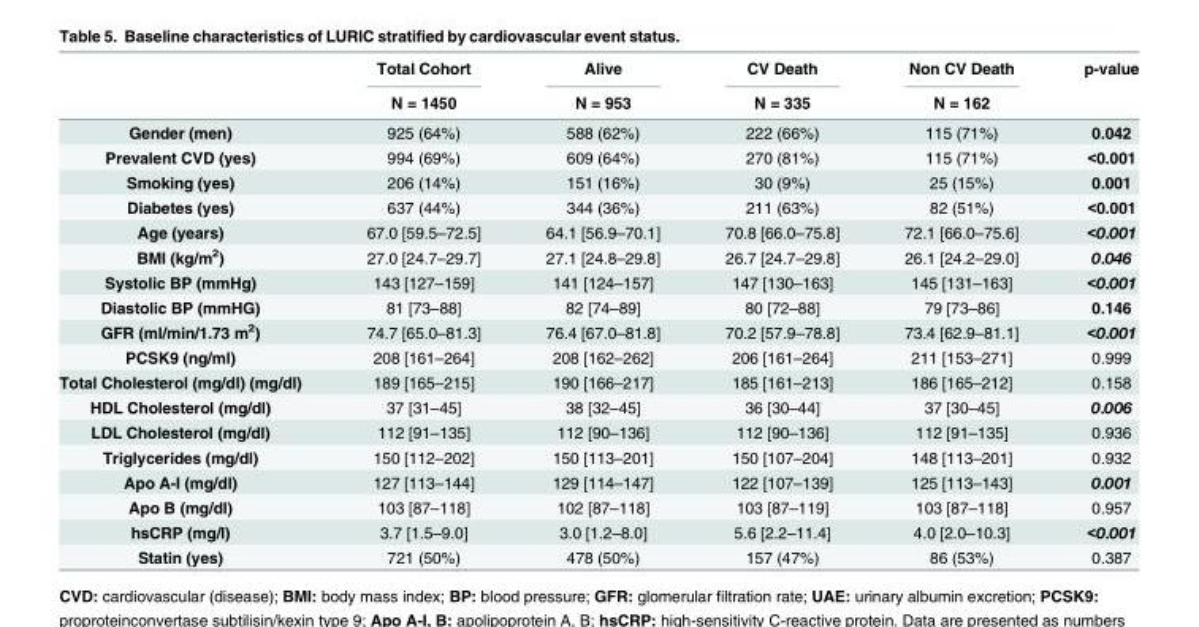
<table><thead><tr><td rowspan="2"></td><td rowspan="2">Total Cohort N = 1450</td><td rowspan="2">Alive N = 953</td><td rowspan="2">CV Death N = 335</td><td rowspan="2">Non CV Death N = 162</td><td rowspan="2">p-value</td></tr><tr></tr></thead><tbody><tr><td>Gender (men)</td><td>925 (64%)</td><td>588 (62%)</td><td>222 (66%)</td><td>115 (71%)</td><td>0.042</td></tr><tr><td>Prevalent CVD (yes)</td><td>994 (69%)</td><td>609 (64%)</td><td>270 (81%)</td><td>115 (71%)</td><td>&lt;0.001</td></tr><tr><td>Smoking (yes)</td><td>206 (14%)</td><td>151 (16%)</td><td>30 (9%)</td><td>25 (15%)</td><td>0.001</td></tr><tr><td>Diabetes (yes)</td><td>637 (44%)</td><td>344 (36%)</td><td>211 (63%)</td><td>82 (51%)</td><td>&lt;0.001</td></tr><tr><td>Age (years)</td><td>67.0 [59.5–72.5]</td><td>64.1 [56.9–70.1]</td><td>70.8 [66.0–75.8]</td><td>72.1 [66.0–75.6]</td><td>&lt;0.001</td></tr><tr><td>BMI (kg/m<sup>2</sup>)</td><td>27.0 [24.7–29.7]</td><td>27.1 [24.8–29.8]</td><td>26.7 [24.7–29.8]</td><td>26.1 [24.2–29.0]</td><td>0.046</td></tr><tr><td>Systolic BP (mmHg)</td><td>143 [127–159]</td><td>141 [124–157]</td><td>147 [130–163]</td><td>145 [131–163]</td><td>&lt;0.001</td></tr><tr><td>Diastolic BP (mmHG)</td><td>81 [73–88]</td><td>82 [74–89]</td><td>80 [72–88]</td><td>79 [73–86]</td><td>0.146</td></tr><tr><td>GFR (ml/min/1.73 m<sup>2</sup>)</td><td>74.7 [65.0–81.3]</td><td>76.4 [67.0–81.8]</td><td>70.2 [57.9–78.8]</td><td>73.4 [62.9–81.1]</td><td>&lt;0.001</td></tr><tr><td>PCSK9 (ng/ml)</td><td>208 [161–264]</td><td>208 [162–262]</td><td>206 [161–264]</td><td>211 [153–271]</td><td>0.999</td></tr><tr><td>Total Cholesterol (mg/dl) (mg/dl)</td><td>189 [165–215]</td><td>190 [166–217]</td><td>185 [161–213]</td><td>186 [165–212]</td><td>0.158</td></tr><tr><td>HDL Cholesterol (mg/dl)</td><td>37 [31–45]</td><td>38 [32–45]</td><td>36 [30–44]</td><td>37 [30–45]</td><td>0.006</td></tr><tr><td>LDL Cholesterol (mg/dl)</td><td>112 [91–135]</td><td>112 [90–136]</td><td>112 [90–136]</td><td>112 [91–135]</td><td>0.936</td></tr><tr><td>Triglycerides (mg/dl)</td><td>150 [112–202]</td><td>150 [113–201]</td><td>150 [107–204]</td><td>148 [113–201]</td><td>0.932</td></tr><tr><td>Apo A-I (mg/dl)</td><td>127 [113–144]</td><td>129 [114–147]</td><td>122 [107–139]</td><td>125 [113–143]</td><td>0.001</td></tr><tr><td>Apo B (mg/dl)</td><td>103 [87–118]</td><td>102 [87–118]</td><td>103 [87–119]</td><td>103 [87–118]</td><td>0.957</td></tr><tr><td>hsCRP (mg/l)</td><td>3.7 [1.5–9.0]</td><td>3.0 [1.2–8.0]</td><td>5.6 [2.2–11.4]</td><td>4.0 [2.0–10.3]</td><td>&lt;0.001</td></tr><tr><td>Statin (yes)</td><td>721 (50%)</td><td>478 (50%)</td><td>157 (47%)</td><td>86 (53%)</td><td>0.387</td></tr></tbody></table>